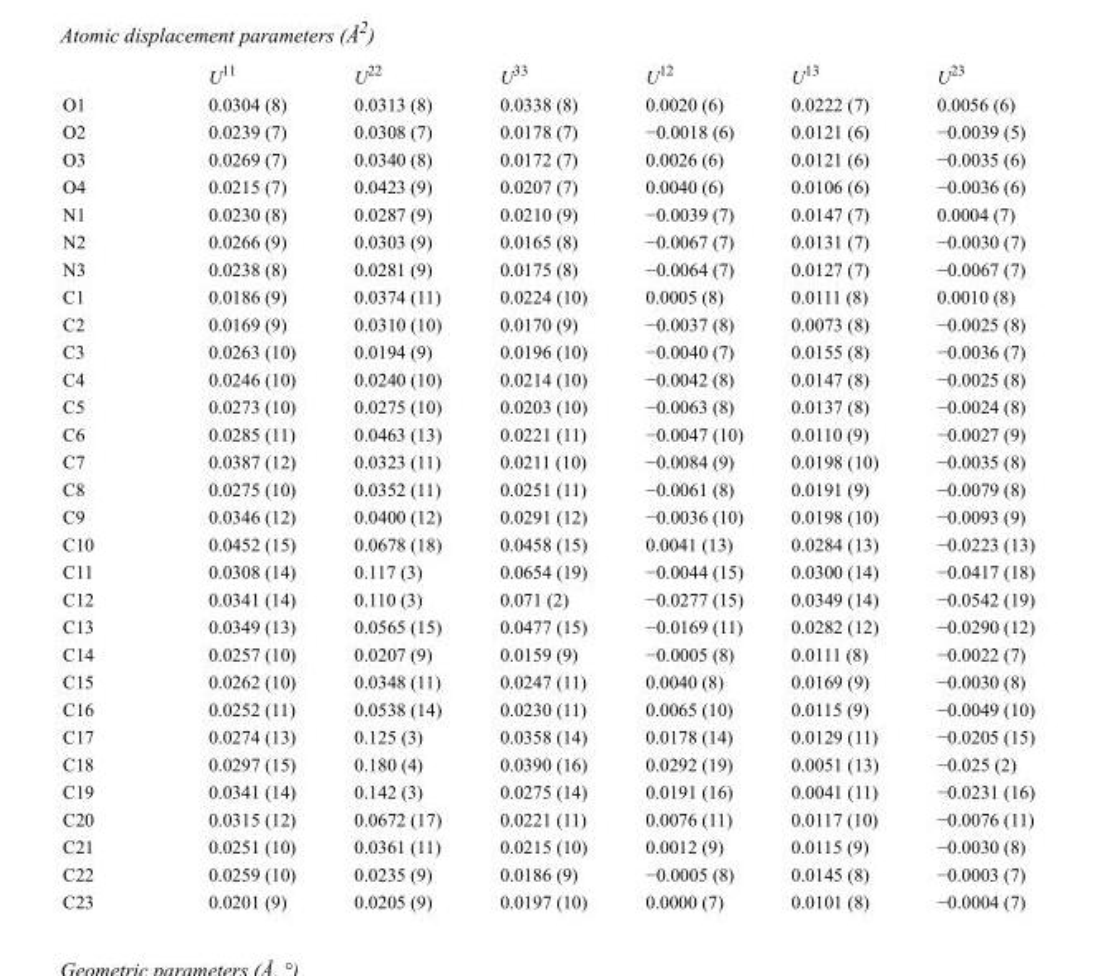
<table><thead><tr><td></td><td>U<sup>11</sup></td><td>U<sup>22</sup></td><td>U<sup>33</sup></td><td>U<sup>12</sup></td><td>U<sup>13</sup></td><td>U<sup>23</sup></td></tr></thead><tbody><tr><td>O1</td><td>0.0304 (8)</td><td>0.0313 (8)</td><td>0.0338 (8)</td><td>0.0020 (6)</td><td>0.0222 (7)</td><td>0.0056 (6)</td></tr><tr><td>O2</td><td>0.0239 (7)</td><td>0.0308 (7)</td><td>0.0178 (7)</td><td>−0.0018 (6)</td><td>0.0121 (6)</td><td>−0.0039 (5)</td></tr><tr><td>O3</td><td>0.0269 (7)</td><td>0.0340 (8)</td><td>0.0172 (7)</td><td>0.0026 (6)</td><td>0.0121 (6)</td><td>−0.0035 (6)</td></tr><tr><td>O4</td><td>0.0215 (7)</td><td>0.0423 (9)</td><td>0.0207 (7)</td><td>0.0040 (6)</td><td>0.0106 (6)</td><td>−0.0036 (6)</td></tr><tr><td>N1</td><td>0.0230 (8)</td><td>0.0287 (9)</td><td>0.0210 (9)</td><td>−0.0039 (7)</td><td>0.0147 (7)</td><td>0.0004 (7)</td></tr><tr><td>N2</td><td>0.0266 (9)</td><td>0.0303 (9)</td><td>0.0165 (8)</td><td>−0.0067 (7)</td><td>0.0131 (7)</td><td>−0.0030 (7)</td></tr><tr><td>N3</td><td>0.0238 (8)</td><td>0.0281 (9)</td><td>0.0175 (8)</td><td>−0.0064 (7)</td><td>0.0127 (7)</td><td>−0.0067 (7)</td></tr><tr><td>C1</td><td>0.0186 (9)</td><td>0.0374 (11)</td><td>0.0224 (10)</td><td>0.0005 (8)</td><td>0.0111 (8)</td><td>0.0010 (8)</td></tr><tr><td>C2</td><td>0.0169 (9)</td><td>0.0310 (10)</td><td>0.0170 (9)</td><td>−0.0037 (8)</td><td>0.0073 (8)</td><td>−0.0025 (8)</td></tr><tr><td>C3</td><td>0.0263 (10)</td><td>0.0194 (9)</td><td>0.0196 (10)</td><td>−0.0040 (7)</td><td>0.0155 (8)</td><td>−0.0036 (7)</td></tr><tr><td>C4</td><td>0.0246 (10)</td><td>0.0240 (10)</td><td>0.0214 (10)</td><td>−0.0042 (8)</td><td>0.0147 (8)</td><td>−0.0025 (8)</td></tr><tr><td>C5</td><td>0.0273 (10)</td><td>0.0275 (10)</td><td>0.0203 (10)</td><td>−0.0063 (8)</td><td>0.0137 (8)</td><td>−0.0024 (8)</td></tr><tr><td>C6</td><td>0.0285 (11)</td><td>0.0463 (13)</td><td>0.0221 (11)</td><td>−0.0047 (10)</td><td>0.0110 (9)</td><td>−0.0027 (9)</td></tr><tr><td>C7</td><td>0.0387 (12)</td><td>0.0323 (11)</td><td>0.0211 (10)</td><td>−0.0084 (9)</td><td>0.0198 (10)</td><td>−0.0035 (8)</td></tr><tr><td>C8</td><td>0.0275 (10)</td><td>0.0352 (11)</td><td>0.0251 (11)</td><td>−0.0061 (8)</td><td>0.0191 (9)</td><td>−0.0079 (8)</td></tr><tr><td>C9</td><td>0.0346 (12)</td><td>0.0400 (12)</td><td>0.0291 (12)</td><td>−0.0036 (10)</td><td>0.0198 (10)</td><td>−0.0093 (9)</td></tr><tr><td>C10</td><td>0.0452 (15)</td><td>0.0678 (18)</td><td>0.0458 (15)</td><td>0.0041 (13)</td><td>0.0284 (13)</td><td>−0.0223 (13)</td></tr><tr><td>C11</td><td>0.0308 (14)</td><td>0.117 (3)</td><td>0.0654 (19)</td><td>−0.0044 (15)</td><td>0.0300 (14)</td><td>−0.0417 (18)</td></tr><tr><td>C12</td><td>0.0341 (14)</td><td>0.110 (3)</td><td>0.071 (2)</td><td>−0.0277 (15)</td><td>0.0349 (14)</td><td>−0.0542 (19)</td></tr><tr><td>C13</td><td>0.0349 (13)</td><td>0.0565 (15)</td><td>0.0477 (15)</td><td>−0.0169 (11)</td><td>0.0282 (12)</td><td>−0.0290 (12)</td></tr><tr><td>C14</td><td>0.0257 (10)</td><td>0.0207 (9)</td><td>0.0159 (9)</td><td>−0.0005 (8)</td><td>0.0111 (8)</td><td>−0.0022 (7)</td></tr><tr><td>C15</td><td>0.0262 (10)</td><td>0.0348 (11)</td><td>0.0247 (11)</td><td>0.0040 (8)</td><td>0.0169 (9)</td><td>−0.0030 (8)</td></tr><tr><td>C16</td><td>0.0252 (11)</td><td>0.0538 (14)</td><td>0.0230 (11)</td><td>0.0065 (10)</td><td>0.0115 (9)</td><td>−0.0049 (10)</td></tr><tr><td>C17</td><td>0.0274 (13)</td><td>0.125 (3)</td><td>0.0358 (14)</td><td>0.0178 (14)</td><td>0.0129 (11)</td><td>−0.0205 (15)</td></tr><tr><td>C18</td><td>0.0297 (15)</td><td>0.180 (4)</td><td>0.0390 (16)</td><td>0.0292 (19)</td><td>0.0051 (13)</td><td>−0.025 (2)</td></tr><tr><td>C19</td><td>0.0341 (14)</td><td>0.142 (3)</td><td>0.0275 (14)</td><td>0.0191 (16)</td><td>0.0041 (11)</td><td>−0.0231 (16)</td></tr><tr><td>C20</td><td>0.0315 (12)</td><td>0.0672 (17)</td><td>0.0221 (11)</td><td>0.0076 (11)</td><td>0.0117 (10)</td><td>−0.0076 (11)</td></tr><tr><td>C21</td><td>0.0251 (10)</td><td>0.0361 (11)</td><td>0.0215 (10)</td><td>0.0012 (9)</td><td>0.0115 (9)</td><td>−0.0030 (8)</td></tr><tr><td>C22</td><td>0.0259 (10)</td><td>0.0235 (9)</td><td>0.0186 (9)</td><td>−0.0005 (8)</td><td>0.0145 (8)</td><td>−0.0003 (7)</td></tr><tr><td>C23</td><td>0.0201 (9)</td><td>0.0205 (9)</td><td>0.0197 (10)</td><td>0.0000 (7)</td><td>0.0101 (8)</td><td>−0.0004 (7)</td></tr></tbody></table>